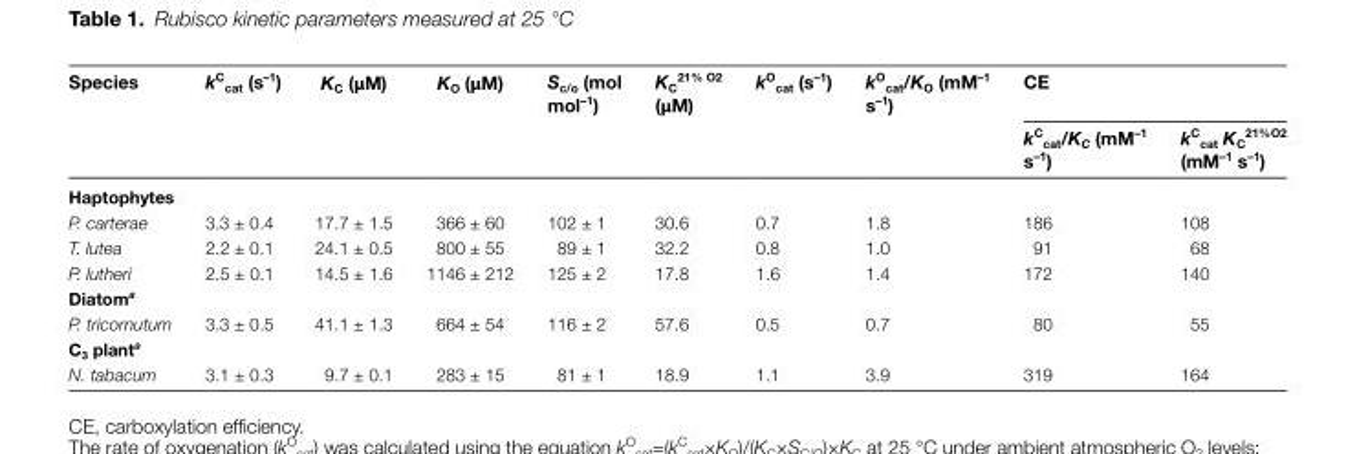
<table><thead><tr><td rowspan="2">Species</td><td rowspan="2">k<sup>C</sup> <sub>cat</sub> (s<sup>–1</sup>)</td><td rowspan="2">K<sub>C</sub> (µM)</td><td rowspan="2">K<sub>O</sub> (µM)</td><td rowspan="2">S<sub>c/o</sub> (mol mol<sup>–1</sup>)</td><td rowspan="2">K<sub>C</sub> <sup>21% O2</sup> (µM)</td><td rowspan="2">k<sup>O</sup> <sub>cat</sub> (s<sup>–1</sup>)</td><td rowspan="2">k<sup>O</sup> <sub>cat</sub>/K<sub>O</sub> (mM<sup>–1</sup> s<sup>–1</sup>)</td><td colspan="2">CE</td></tr><tr><td>k<sup>C</sup> <sub>cat</sub>/K<sub>C</sub> (mM<sup>–1</sup> s<sup>–1</sup>)</td><td>k<sup>C</sup> <sub>cat</sub> K<sub>C</sub> <sup>21%O2</sup> (mM<sup>–1</sup> s<sup>–1</sup>)</td></tr></thead><tbody><tr><td colspan="10">Haptophytes</td></tr><tr><td>P. carterae</td><td>3.3 ± 0.4</td><td>17.7 ± 1.5</td><td>366 ± 60</td><td>102 ± 1</td><td>30.6</td><td>0.7</td><td>1.8</td><td>186</td><td>108</td></tr><tr><td>T. lutea</td><td>2.2 ± 0.1</td><td>24.1 ± 0.5</td><td>800 ± 55</td><td>89 ± 1</td><td>32.2</td><td>0.8</td><td>1.0</td><td>91</td><td>68</td></tr><tr><td>P. lutheri</td><td>2.5 ± 0.1</td><td>14.5 ± 1.6</td><td>1146 ± 212</td><td>125 ± 2</td><td>17.8</td><td>1.6</td><td>1.4</td><td>172</td><td>140</td></tr><tr><td colspan="10">Diatom<sup>a</sup></td></tr><tr><td>P. tricornutum</td><td>3.3 ± 0.5</td><td>41.1 ± 1.3</td><td>664 ± 54</td><td>116 ± 2</td><td>57.6</td><td>0.5</td><td>0.7</td><td>80</td><td>55</td></tr><tr><td colspan="10">C<sub>3</sub> plant<sup>a</sup></td></tr><tr><td>N. tabacum</td><td>3.1 ± 0.3</td><td>9.7 ± 0.1</td><td>283 ± 15</td><td>81 ± 1</td><td>18.9</td><td>1.1</td><td>3.9</td><td>319</td><td>164</td></tr></tbody></table>